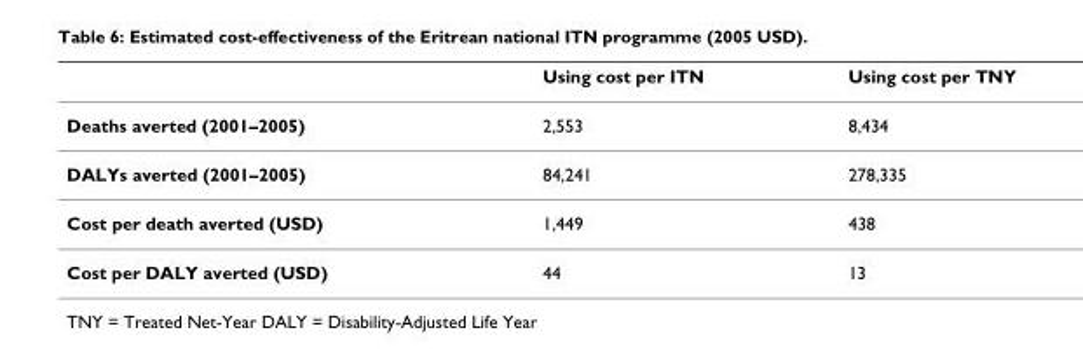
<table><thead><tr><td></td><td>Using cost per ITN</td><td>Using cost per TNY</td></tr></thead><tbody><tr><td>Deaths averted (2001–2005)</td><td>2,553</td><td>8,434</td></tr><tr><td>DALYs averted (2001–2005)</td><td>84,241</td><td>278,335</td></tr><tr><td>Cost per death averted (USD)</td><td>1,449</td><td>438</td></tr><tr><td>Cost per DALY averted (USD)</td><td>44</td><td>13</td></tr></tbody></table>